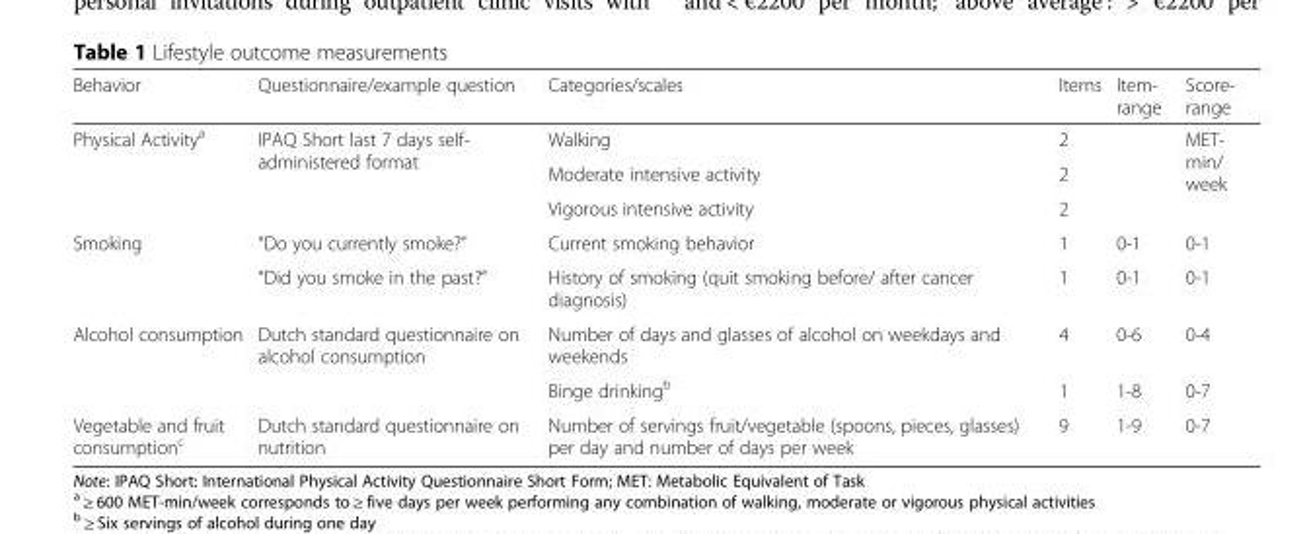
<table><thead><tr><td>Behavior</td><td>Questionnaire/example question</td><td>Categories/scales</td><td>Items</td><td>Item- range</td><td>Score- range</td></tr></thead><tbody><tr><td rowspan="3">Physical Activity<sup>a</sup></td><td rowspan="3">IPAQ Short last 7 days self- administered format</td><td>Walking</td><td>2</td><td rowspan="3"></td><td rowspan="3">MET- min/ week</td></tr><tr><td>Moderate intensive activity</td><td>2</td></tr><tr><td>Vigorous intensive activity</td><td>2</td></tr><tr><td rowspan="2">Smoking</td><td>“Do you currently smoke?”</td><td>Current smoking behavior</td><td>1</td><td>0-1</td><td>0-1</td></tr><tr><td>“Did you smoke in the past?”</td><td>History of smoking (quit smoking before/ after cancer diagnosis)</td><td>1</td><td>0-1</td><td>0-1</td></tr><tr><td rowspan="2">Alcohol consumption</td><td rowspan="2">Dutch standard questionnaire on alcohol consumption</td><td>Number of days and glasses of alcohol on weekdays and weekends</td><td>4</td><td>0-6</td><td>0-4</td></tr><tr><td>Binge drinking<sup>b</sup></td><td>1</td><td>1-8</td><td>0-7</td></tr><tr><td>Vegetable and fruit consumption<sup>c</sup></td><td>Dutch standard questionnaire on nutrition</td><td>Number of servings fruit/vegetable (spoons, pieces, glasses) per day and number of days per week</td><td>9</td><td>1-9</td><td>0-7</td></tr></tbody></table>